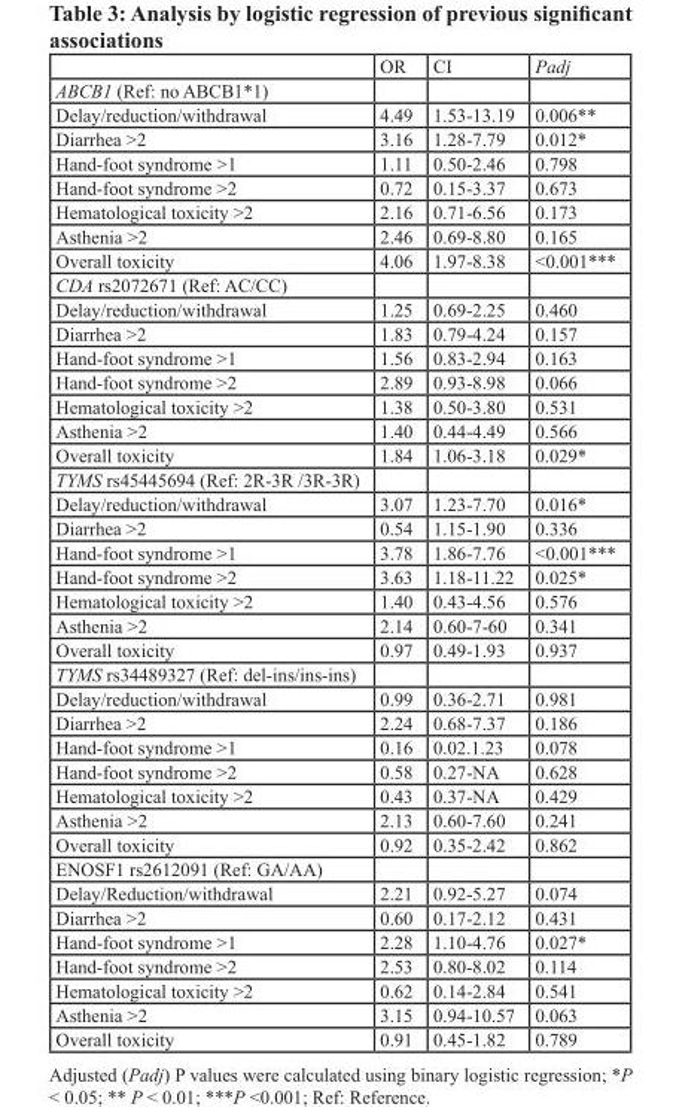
<table><thead><tr><td></td><td>OR</td><td>CI</td><td>Padj</td></tr></thead><tbody><tr><td colspan="4">ABCB1 (Ref: no ABCB1*1)</td></tr><tr><td>Delay/reduction/withdrawal</td><td>4.49</td><td>1.53-13.19</td><td>0.006**</td></tr><tr><td>Diarrhea &gt;2</td><td>3.16</td><td>1.28-7.79</td><td>0.012*</td></tr><tr><td>Hand-foot syndrome &gt;1</td><td>1.11</td><td>0.50-2.46</td><td>0.798</td></tr><tr><td>Hand-foot syndrome &gt;2</td><td>0.72</td><td>0.15-3.37</td><td>0.673</td></tr><tr><td>Hematological toxicity &gt;2</td><td>2.16</td><td>0.71-6.56</td><td>0.173</td></tr><tr><td>Asthenia &gt;2</td><td>2.46</td><td>0.69-8.80</td><td>0.165</td></tr><tr><td>Overall toxicity</td><td>4.06</td><td>1.97-8.38</td><td>&lt;0.001***</td></tr><tr><td colspan="4">CDA rs2072671 (Ref: AC/CC)</td></tr><tr><td>Delay/reduction/withdrawal</td><td>1.25</td><td>0.69-2.25</td><td>0.460</td></tr><tr><td>Diarrhea &gt;2</td><td>1.83</td><td>0.79-4.24</td><td>0.157</td></tr><tr><td>Hand-foot syndrome &gt;1</td><td>1.56</td><td>0.83-2.94</td><td>0.163</td></tr><tr><td>Hand-foot syndrome &gt;2</td><td>2.89</td><td>0.93-8.98</td><td>0.066</td></tr><tr><td>Hematological toxicity &gt;2</td><td>1.38</td><td>0.50-3.80</td><td>0.531</td></tr><tr><td>Asthenia &gt;2</td><td>1.40</td><td>0.44-4.49</td><td>0.566</td></tr><tr><td>Overall toxicity</td><td>1.84</td><td>1.06-3.18</td><td>0.029*</td></tr><tr><td colspan="4">TYMS rs45445694 (Ref: 2R-3R /3R-3R)</td></tr><tr><td>Delay/reduction/withdrawal</td><td>3.07</td><td>1.23-7.70</td><td>0.016*</td></tr><tr><td>Diarrhea &gt;2</td><td>0.54</td><td>1.15-1.90</td><td>0.336</td></tr><tr><td>Hand-foot syndrome &gt;1</td><td>3.78</td><td>1.86-7.76</td><td>&lt;0.001***</td></tr><tr><td>Hand-foot syndrome &gt;2</td><td>3.63</td><td>1.18-11.22</td><td>0.025*</td></tr><tr><td>Hematological toxicity &gt;2</td><td>1.40</td><td>0.43-4.56</td><td>0.576</td></tr><tr><td>Asthenia &gt;2</td><td>2.14</td><td>0.60-7-60</td><td>0.341</td></tr><tr><td>Overall toxicity</td><td>0.97</td><td>0.49-1.93</td><td>0.937</td></tr><tr><td colspan="4">TYMS rs34489327 (Ref: del-ins/ins-ins)</td></tr><tr><td>Delay/reduction/withdrawal</td><td>0.99</td><td>0.36-2.71</td><td>0.981</td></tr><tr><td>Diarrhea &gt;2</td><td>2.24</td><td>0.68-7.37</td><td>0.186</td></tr><tr><td>Hand-foot syndrome &gt;1</td><td>0.16</td><td>0.02.1.23</td><td>0.078</td></tr><tr><td>Hand-foot syndrome &gt;2</td><td>0.58</td><td>0.27-NA</td><td>0.628</td></tr><tr><td>Hematological toxicity &gt;2</td><td>0.43</td><td>0.37-NA</td><td>0.429</td></tr><tr><td>Asthenia &gt;2</td><td>2.13</td><td>0.60-7.60</td><td>0.241</td></tr><tr><td>Overall toxicity</td><td>0.92</td><td>0.35-2.42</td><td>0.862</td></tr><tr><td colspan="4">ENOSF1 rs2612091 (Ref: GA/AA)</td></tr><tr><td>Delay/Reduction/withdrawal</td><td>2.21</td><td>0.92-5.27</td><td>0.074</td></tr><tr><td>Diarrhea &gt;2</td><td>0.60</td><td>0.17-2.12</td><td>0.431</td></tr><tr><td>Hand-foot syndrome &gt;1</td><td>2.28</td><td>1.10-4.76</td><td>0.027*</td></tr><tr><td>Hand-foot syndrome &gt;2</td><td>2.53</td><td>0.80-8.02</td><td>0.114</td></tr><tr><td>Hematological toxicity &gt;2</td><td>0.62</td><td>0.14-2.84</td><td>0.541</td></tr><tr><td>Asthenia &gt;2</td><td>3.15</td><td>0.94-10.57</td><td>0.063</td></tr><tr><td>Overall toxicity</td><td>0.91</td><td>0.45-1.82</td><td>0.789</td></tr></tbody></table>